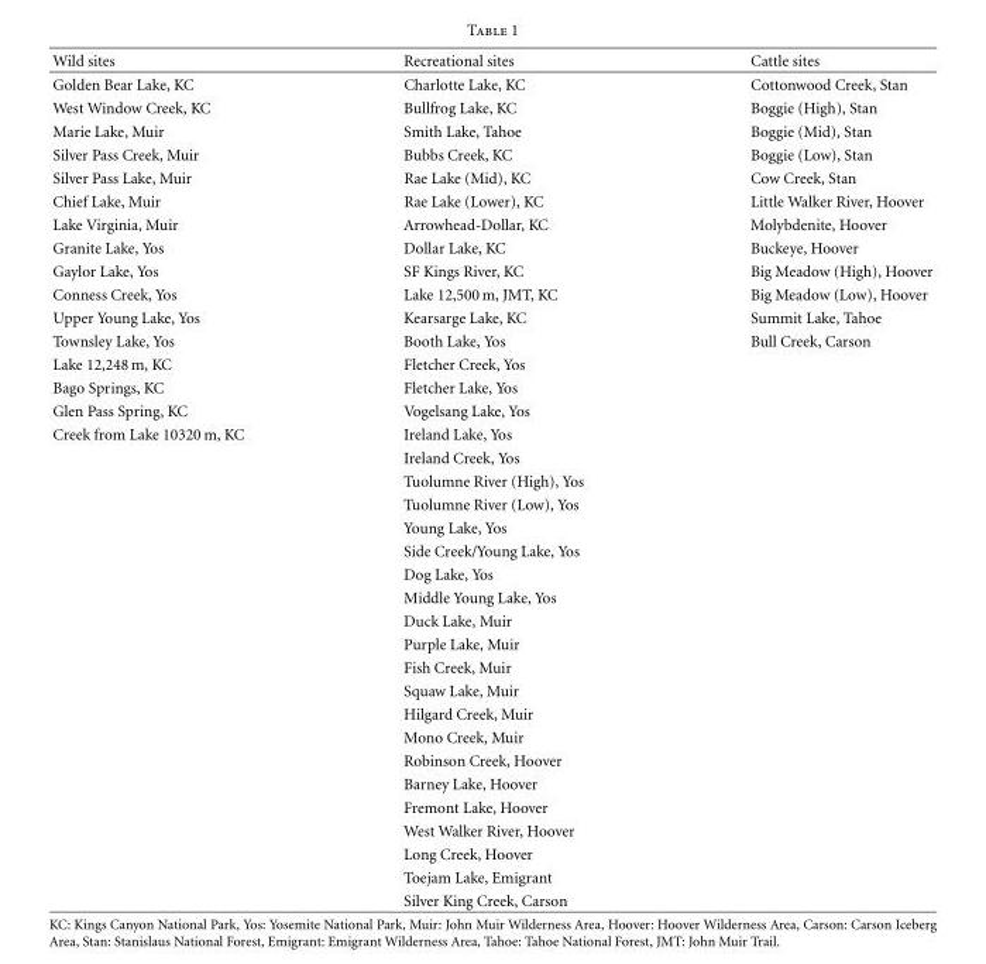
<table><thead><tr><td>Wild sites</td><td>Recreational sites</td><td>Cattle sites</td></tr></thead><tbody><tr><td>Golden Bear Lake, KC</td><td>Charlotte Lake, KC</td><td>Cottonwood Creek, Stan</td></tr><tr><td>West Window Creek, KC</td><td>Bullfrog Lake, KC</td><td>Boggie (High), Stan</td></tr><tr><td>Marie Lake, Muir</td><td>Smith Lake, Tahoe</td><td>Boggie (Mid), Stan</td></tr><tr><td>Silver Pass Creek, Muir</td><td>Bubbs Creek, KC</td><td>Boggie (Low), Stan</td></tr><tr><td>Silver Pass Lake, Muir</td><td>Rae Lake (Mid), KC</td><td>Cow Creek, Stan</td></tr><tr><td>Chief Lake, Muir</td><td>Rae Lake (Lower), KC</td><td>Little Walker River, Hoover</td></tr><tr><td>Lake Virginia, Muir</td><td>Arrowhead-Dollar, KC</td><td>Molybdenite, Hoover</td></tr><tr><td>Granite Lake, Yos</td><td>Dollar Lake, KC</td><td>Buckeye, Hoover</td></tr><tr><td>Gaylor Lake, Yos</td><td>SF Kings River, KC</td><td>Big Meadow (High), Hoover</td></tr><tr><td>Conness Creek, Yos</td><td>Lake 12,500 m, JMT, KC</td><td>Big Meadow (Low), Hoover</td></tr><tr><td>Upper Young Lake, Yos</td><td>Kearsarge Lake, KC</td><td>Summit Lake, Tahoe</td></tr><tr><td>Townsley Lake, Yos</td><td>Booth Lake, Yos</td><td>Bull Creek, Carson</td></tr><tr><td>Lake 12,248 m, KC</td><td>Fletcher Creek, Yos</td><td></td></tr><tr><td>Bago Springs, KC</td><td>Fletcher Lake, Yos</td><td></td></tr><tr><td>Glen Pass Spring, KC</td><td>Vogelsang Lake, Yos</td><td></td></tr><tr><td rowspan="21">Creek from Lake 10320 m, KC</td><td>Ireland Lake, Yos</td><td></td></tr><tr><td>Ireland Creek, Yos</td><td></td></tr><tr><td>Tuolumne River (High), Yos</td><td></td></tr><tr><td>Tuolumne River (Low), Yos</td><td></td></tr><tr><td>Young Lake, Yos</td><td></td></tr><tr><td>Side Creek/Young Lake, Yos</td><td></td></tr><tr><td>Dog Lake, Yos</td><td></td></tr><tr><td>Middle Young Lake, Yos</td><td></td></tr><tr><td>Duck Lake, Muir</td><td></td></tr><tr><td>Purple Lake, Muir</td><td></td></tr><tr><td>Fish Creek, Muir</td><td></td></tr><tr><td>Squaw Lake, Muir</td><td></td></tr><tr><td>Hilgard Creek, Muir</td><td></td></tr><tr><td>Mono Creek, Muir</td><td></td></tr><tr><td>Robinson Creek, Hoover</td><td></td></tr><tr><td>Barney Lake, Hoover</td><td></td></tr><tr><td>Fremont Lake, Hoover</td><td></td></tr><tr><td>West Walker River, Hoover</td><td></td></tr><tr><td>Long Creek, Hoover</td><td></td></tr><tr><td>Toejam Lake, Emigrant</td><td></td></tr><tr><td>Silver King Creek, Carson</td><td></td></tr></tbody></table>